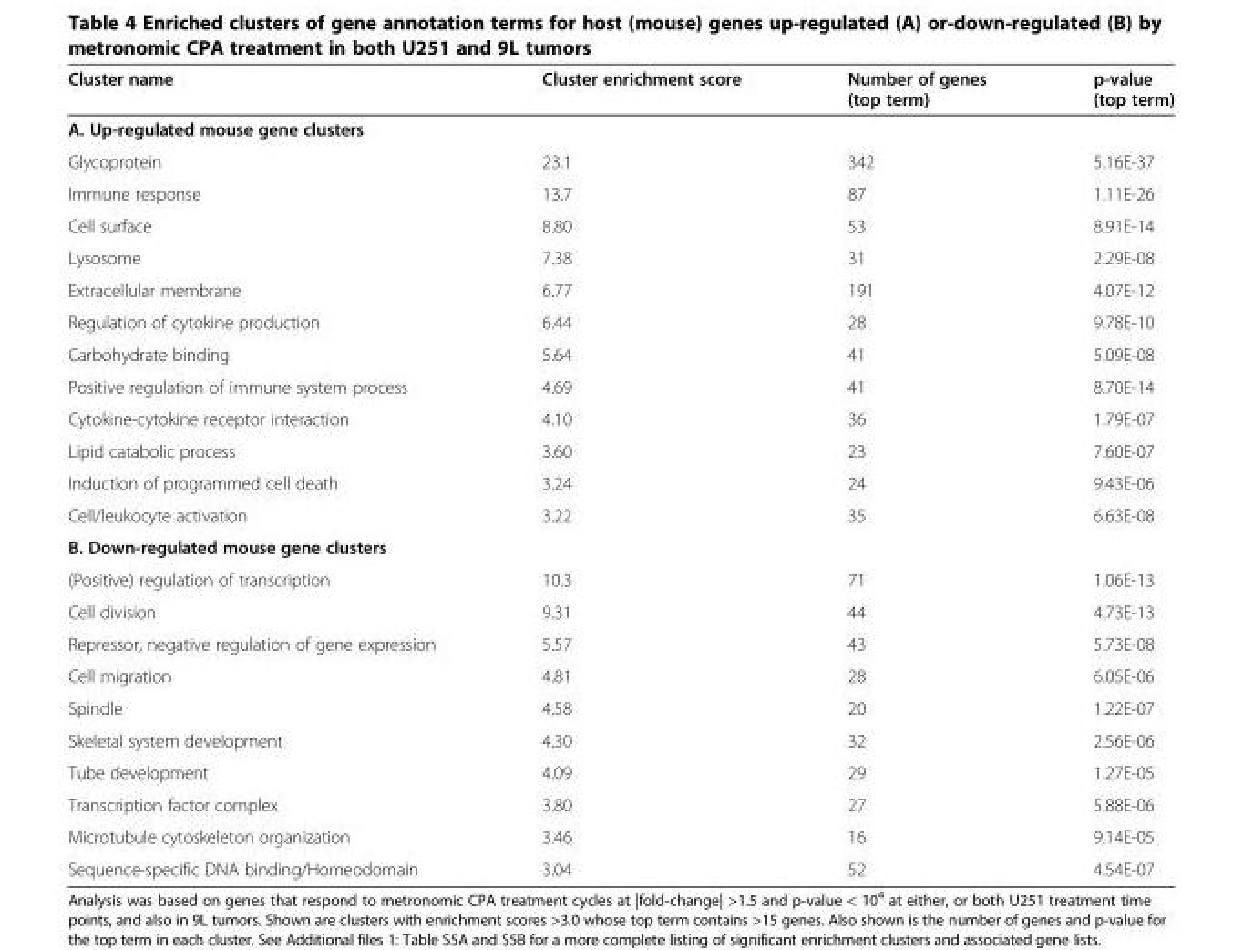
<table><thead><tr><td>Cluster name</td><td>Cluster enrichment score</td><td>Number of genes (top term)</td><td>p-value (top term)</td></tr></thead><tbody><tr><td colspan="4">A. Up-regulated mouse gene clusters</td></tr><tr><td>Glycoprotein</td><td>23.1</td><td>342</td><td>5.16E-37</td></tr><tr><td>Immune response</td><td>13.7</td><td>87</td><td>1.11E-26</td></tr><tr><td>Cell surface</td><td>8.80</td><td>53</td><td>8.91E-14</td></tr><tr><td>Lysosome</td><td>7.38</td><td>31</td><td>2.29E-08</td></tr><tr><td>Extracellular membrane</td><td>6.77</td><td>191</td><td>4.07E-12</td></tr><tr><td>Regulation of cytokine production</td><td>6.44</td><td>28</td><td>9.78E-10</td></tr><tr><td>Carbohydrate binding</td><td>5.64</td><td>41</td><td>5.09E-08</td></tr><tr><td>Positive regulation of immune system process</td><td>4.69</td><td>41</td><td>8.70E-14</td></tr><tr><td>Cytokine-cytokine receptor interaction</td><td>4.10</td><td>36</td><td>1.79E-07</td></tr><tr><td>Lipid catabolic process</td><td>3.60</td><td>23</td><td>7.60E-07</td></tr><tr><td>Induction of programmed cell death</td><td>3.24</td><td>24</td><td>9.43E-06</td></tr><tr><td>Cell/leukocyte activation</td><td>3.22</td><td>35</td><td>6.63E-08</td></tr><tr><td colspan="4">B. Down-regulated mouse gene clusters</td></tr><tr><td>(Positive) regulation of transcription</td><td>10.3</td><td>71</td><td>1.06E-13</td></tr><tr><td>Cell division</td><td>9.31</td><td>44</td><td>4.73E-13</td></tr><tr><td>Repressor, negative regulation of gene expression</td><td>5.57</td><td>43</td><td>5.73E-08</td></tr><tr><td>Cell migration</td><td>4.81</td><td>28</td><td>6.05E-06</td></tr><tr><td>Spindle</td><td>4.58</td><td>20</td><td>1.22E-07</td></tr><tr><td>Skeletal system development</td><td>4.30</td><td>32</td><td>2.56E-06</td></tr><tr><td>Tube development</td><td>4.09</td><td>29</td><td>1.27E-05</td></tr><tr><td>Transcription factor complex</td><td>3.80</td><td>27</td><td>5.88E-06</td></tr><tr><td>Microtubule cytoskeleton organization</td><td>3.46</td><td>16</td><td>9.14E-05</td></tr><tr><td>Sequence-specific DNA binding/Homeodomain</td><td>3.04</td><td>52</td><td>4.54E-07</td></tr></tbody></table>